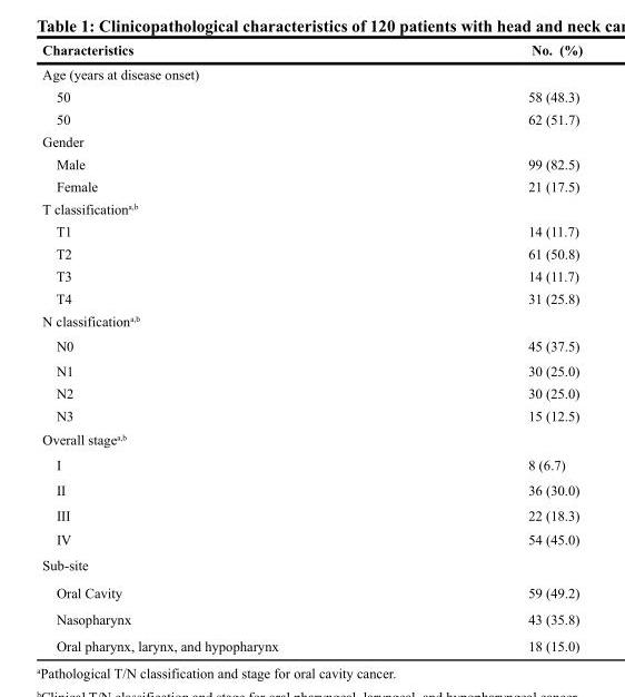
<table><thead><tr><td>Characteristics</td><td>No. (%)</td></tr></thead><tbody><tr><td colspan="2">Age (years at disease onset)</td></tr><tr><td>50</td><td>58 (48.3)</td></tr><tr><td>50</td><td>62 (51.7)</td></tr><tr><td colspan="2">Gender</td></tr><tr><td>Male</td><td>99 (82.5)</td></tr><tr><td>Female</td><td>21 (17.5)</td></tr><tr><td colspan="2">T classification<sup>a,b</sup></td></tr><tr><td>T1</td><td>14 (11.7)</td></tr><tr><td>T2</td><td>61 (50.8)</td></tr><tr><td>T3</td><td>14 (11.7)</td></tr><tr><td>T4</td><td>31 (25.8)</td></tr><tr><td colspan="2">N classification<sup>a,b</sup></td></tr><tr><td>N0</td><td>45 (37.5)</td></tr><tr><td>N1</td><td>30 (25.0)</td></tr><tr><td>N2</td><td>30 (25.0)</td></tr><tr><td>N3</td><td>15 (12.5)</td></tr><tr><td colspan="2">Overall stage<sup>a,b</sup></td></tr><tr><td>I</td><td>8 (6.7)</td></tr><tr><td>II</td><td>36 (30.0)</td></tr><tr><td>III</td><td>22 (18.3)</td></tr><tr><td>IV</td><td>54 (45.0)</td></tr><tr><td colspan="2">Sub-site</td></tr><tr><td>Oral Cavity</td><td>59 (49.2)</td></tr><tr><td>Nasopharynx</td><td>43 (35.8)</td></tr><tr><td>Oral pharynx, larynx, and hypopharynx</td><td>18 (15.0)</td></tr></tbody></table>